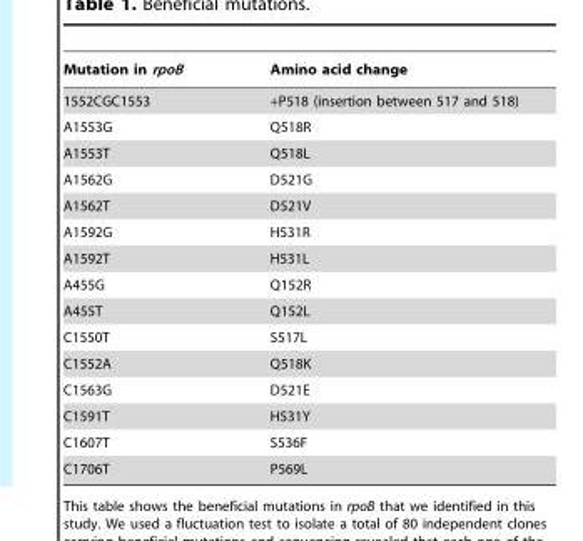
<table><thead><tr><td>Mutation in rpoB</td><td>Amino acid change</td></tr></thead><tbody><tr><td>1552CGC1553</td><td>+P518 (insertion between 517 and 518)</td></tr><tr><td>A1553G</td><td>Q518R</td></tr><tr><td>A1553T</td><td>Q518L</td></tr><tr><td>A1562G</td><td>D521G</td></tr><tr><td>A1562T</td><td>D521V</td></tr><tr><td>A1592G</td><td>H531R</td></tr><tr><td>A1592T</td><td>H531L</td></tr><tr><td>A455G</td><td>Q152R</td></tr><tr><td>A455T</td><td>Q152L</td></tr><tr><td>C1550T</td><td>S517L</td></tr><tr><td>C1552A</td><td>Q518K</td></tr><tr><td>C1563G</td><td>D521E</td></tr><tr><td>C1591T</td><td>H531Y</td></tr><tr><td>C1607T</td><td>S536F</td></tr><tr><td>C1706T</td><td>P569L</td></tr></tbody></table>